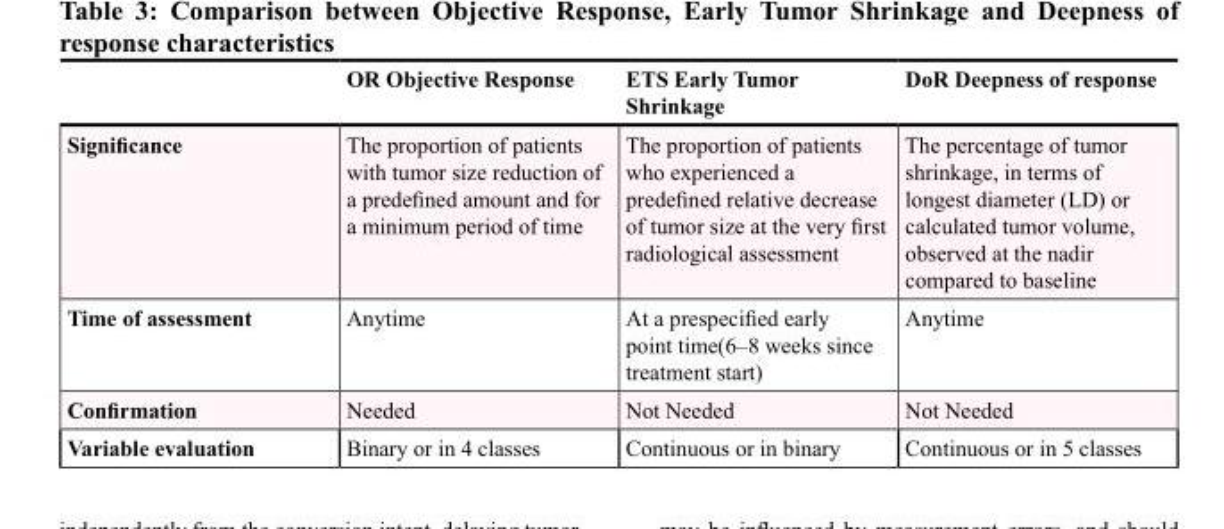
<table><thead><tr><td></td><td>OR Objective Response</td><td>ETS Early Tumor Shrinkage</td><td>DoR Deepness of response</td></tr></thead><tbody><tr><td>Significance</td><td>The proportion of patients with tumor size reduction of a predefined amount and for a minimum period of time</td><td>The proportion of patients who experienced a predefined relative decrease of tumor size at the very first radiological assessment</td><td>The percentage of tumor shrinkage, in terms of longest diameter (LD) or calculated tumor volume, observed at the nadir compared to baseline</td></tr><tr><td>Time of assessment</td><td>Anytime</td><td>At a prespecified early point time(6–8 weeks since treatment start)</td><td>Anytime</td></tr><tr><td>Confirmation</td><td>Needed</td><td>Not Needed</td><td>Not Needed</td></tr><tr><td>Variable evaluation</td><td>Binary or in 4 classes</td><td>Continuous or in binary</td><td>Continuous or in 5 classes</td></tr></tbody></table>